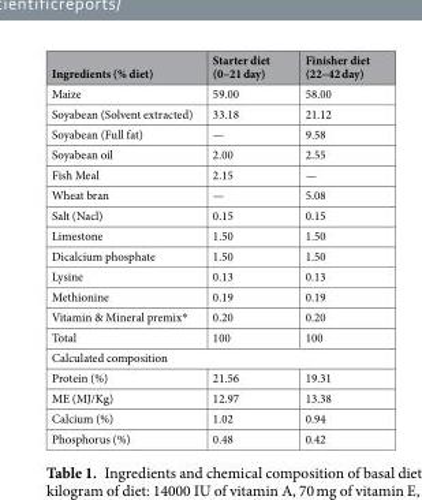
<table><thead><tr><td>Ingredients (% diet)</td><td>Starter diet (0–21 day)</td><td>Finisher diet (22–42 day)</td></tr></thead><tbody><tr><td>Maize</td><td>59.00</td><td>58.00</td></tr><tr><td>Soyabean (Solvent extracted)</td><td>33.18</td><td>21.12</td></tr><tr><td>Soyabean (Full fat)</td><td>—</td><td>9.58</td></tr><tr><td>Soyabean oil</td><td>2.00</td><td>2.55</td></tr><tr><td>Fish Meal</td><td>2.15</td><td>—</td></tr><tr><td>Wheat bran</td><td>—</td><td>5.08</td></tr><tr><td>Salt (Nacl)</td><td>0.15</td><td>0.15</td></tr><tr><td>Limestone</td><td>1.50</td><td>1.50</td></tr><tr><td>Dicalcium phosphate</td><td>1.50</td><td>1.50</td></tr><tr><td>Lysine</td><td>0.13</td><td>0.13</td></tr><tr><td>Methionine</td><td>0.19</td><td>0.19</td></tr><tr><td>Vitamin &amp; Mineral premix*</td><td>0.20</td><td>0.20</td></tr><tr><td>Total</td><td>100</td><td>100</td></tr><tr><td colspan="3">Calculated composition</td></tr><tr><td>Protein (%)</td><td>21.56</td><td>19.31</td></tr><tr><td>ME (MJ/Kg)</td><td>12.97</td><td>13.38</td></tr><tr><td>Calcium (%)</td><td>1.02</td><td>0.94</td></tr><tr><td>Phosphorus (%)</td><td>0.48</td><td>0.42</td></tr></tbody></table>